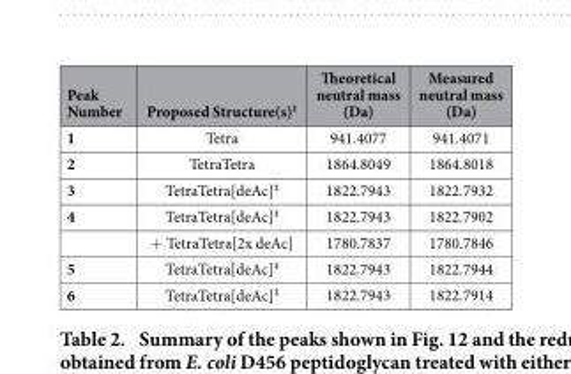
<table><thead><tr><td>Peak Number</td><td>Proposed Structure(s)<sup>1</sup></td><td>Theoretical neutral mass (Da)</td><td>Measured neutral mass (Da)</td></tr></thead><tbody><tr><td>1</td><td>Tetra</td><td>941.4077</td><td>941.4071</td></tr><tr><td>2</td><td>TetraTetra</td><td>1864.8049</td><td>1864.8018</td></tr><tr><td>3</td><td>TetraTetra[deAc]<sup>‡</sup></td><td>1822.7943</td><td>1822.7932</td></tr><tr><td rowspan="2">4</td><td>TetraTetra[deAc]<sup>‡</sup></td><td>1822.7943</td><td>1822.7902</td></tr><tr><td>+ TetraTetra[2x deAc]</td><td>1780.7837</td><td>1780.7846</td></tr><tr><td>5</td><td>TetraTetra[deAc]<sup>‡</sup></td><td>1822.7943</td><td>1822.7944</td></tr><tr><td>6</td><td>TetraTetra[deAc]<sup>‡</sup></td><td>1822.7943</td><td>1822.7914</td></tr></tbody></table>